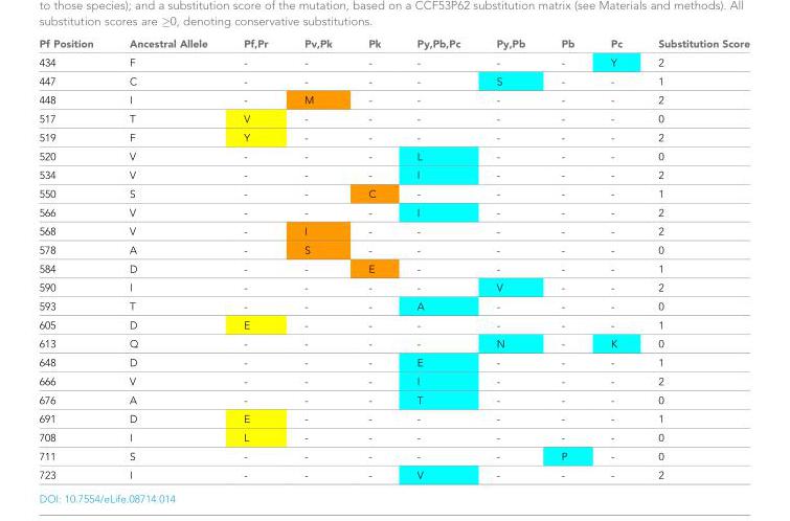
<table><thead><tr><td>Pf Position</td><td>Ancestral Allele</td><td>Pf,Pr</td><td>Pv,Pk</td><td>Pk</td><td>Py,Pb,Pc</td><td>Py,Pb</td><td>Pb</td><td>Pc</td><td>Substitution Score</td></tr></thead><tbody><tr><td>434</td><td>F</td><td>-</td><td>-</td><td>-</td><td>-</td><td>-</td><td>-</td><td>Y</td><td>2</td></tr><tr><td>447</td><td>C</td><td>-</td><td>-</td><td>-</td><td>-</td><td>S</td><td>-</td><td>-</td><td>1</td></tr><tr><td>448</td><td>I</td><td>-</td><td>M</td><td>-</td><td>-</td><td>-</td><td>-</td><td>-</td><td>2</td></tr><tr><td>517</td><td>T</td><td>V</td><td>-</td><td>-</td><td>-</td><td>-</td><td>-</td><td>-</td><td>0</td></tr><tr><td>519</td><td>F</td><td>Y</td><td>-</td><td>-</td><td>-</td><td>-</td><td>-</td><td>-</td><td>2</td></tr><tr><td>520</td><td>V</td><td>-</td><td>-</td><td>-</td><td>L</td><td>-</td><td>-</td><td>-</td><td>0</td></tr><tr><td>534</td><td>V</td><td>-</td><td>-</td><td>-</td><td>I</td><td>-</td><td>-</td><td>-</td><td>2</td></tr><tr><td>550</td><td>S</td><td>-</td><td>-</td><td>C</td><td>-</td><td>-</td><td>-</td><td>-</td><td>1</td></tr><tr><td>566</td><td>V</td><td>-</td><td>-</td><td>-</td><td>I</td><td>-</td><td>-</td><td>-</td><td>2</td></tr><tr><td>568</td><td>V</td><td>-</td><td>I</td><td>-</td><td>-</td><td>-</td><td>-</td><td>-</td><td>2</td></tr><tr><td>578</td><td>A</td><td>-</td><td>S</td><td>-</td><td>-</td><td>-</td><td>-</td><td>-</td><td>0</td></tr><tr><td>584</td><td>D</td><td>-</td><td>-</td><td>E</td><td>-</td><td>-</td><td>-</td><td>-</td><td>1</td></tr><tr><td>590</td><td>I</td><td>-</td><td>-</td><td>-</td><td>-</td><td>V</td><td>-</td><td>-</td><td>2</td></tr><tr><td>593</td><td>T</td><td>-</td><td>-</td><td>-</td><td>A</td><td>-</td><td>-</td><td>-</td><td>0</td></tr><tr><td>605</td><td>D</td><td>E</td><td>-</td><td>-</td><td>-</td><td>-</td><td>-</td><td>-</td><td>1</td></tr><tr><td>613</td><td>Q</td><td>-</td><td>-</td><td>-</td><td>-</td><td>N</td><td>-</td><td>K</td><td>0</td></tr><tr><td>648</td><td>D</td><td>-</td><td>-</td><td>-</td><td>E</td><td>-</td><td>-</td><td>-</td><td>1</td></tr><tr><td>666</td><td>V</td><td>-</td><td>-</td><td>-</td><td>I</td><td>-</td><td>-</td><td>-</td><td>2</td></tr><tr><td>676</td><td>A</td><td>-</td><td>-</td><td>-</td><td>T</td><td>-</td><td>-</td><td>-</td><td>0</td></tr><tr><td>691</td><td>D</td><td>E</td><td>-</td><td>-</td><td>-</td><td>-</td><td>-</td><td>-</td><td>1</td></tr><tr><td>708</td><td>I</td><td>L</td><td>-</td><td>-</td><td>-</td><td>-</td><td>-</td><td>-</td><td>0</td></tr><tr><td>711</td><td>S</td><td>-</td><td>-</td><td>-</td><td>-</td><td>-</td><td>P</td><td>-</td><td>0</td></tr><tr><td>723</td><td>I</td><td>-</td><td>-</td><td>-</td><td>V</td><td>-</td><td>-</td><td>-</td><td>2</td></tr></tbody></table>